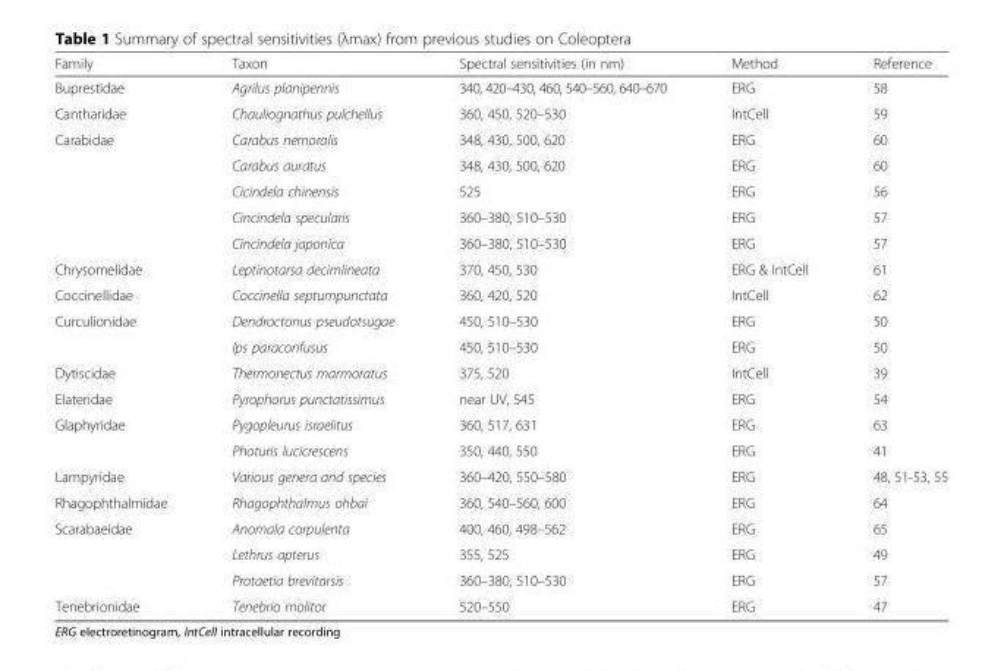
<table><thead><tr><td>Family</td><td>Taxon</td><td>Spectral sensitivities (in nm)</td><td>Method</td><td>Reference</td></tr></thead><tbody><tr><td>Buprestidae</td><td>Agrilus planipennis</td><td>340, 420–430, 460, 540–560, 640–670</td><td>ERG</td><td>58</td></tr><tr><td>Cantharidae</td><td>Chauliognathus pulchellus</td><td>360, 450, 520–530</td><td>IntCell</td><td>59</td></tr><tr><td rowspan="5">Carabidae</td><td>Carabus nemoralis</td><td>348, 430, 500, 620</td><td>ERG</td><td>60</td></tr><tr><td>Carabus auratus</td><td>348, 430, 500, 620</td><td>ERG</td><td>60</td></tr><tr><td>Cicindela chinensis</td><td>525</td><td>ERG</td><td>56</td></tr><tr><td>Cincindela specularis</td><td>360–380, 510–530</td><td>ERG</td><td>57</td></tr><tr><td>Cincindela japonica</td><td>360–380, 510–530</td><td>ERG</td><td>57</td></tr><tr><td>Chrysomelidae</td><td>Leptinotarsa decimlineata</td><td>370, 450, 530</td><td>ERG &amp; IntCell</td><td>61</td></tr><tr><td>Coccinellidae</td><td>Coccinella septumpunctata</td><td>360, 420, 520</td><td>IntCell</td><td>62</td></tr><tr><td rowspan="2">Curculionidae</td><td>Dendroctonus pseudotsugae</td><td>450, 510–530</td><td>ERG</td><td>50</td></tr><tr><td>Ips paraconfusus</td><td>450, 510–530</td><td>ERG</td><td>50</td></tr><tr><td>Dytiscidae</td><td>Thermonectus marmoratus</td><td>375, 520</td><td>IntCell</td><td>39</td></tr><tr><td>Elateridae</td><td>Pyrophorus punctatissimus</td><td>near UV, 545</td><td>ERG</td><td>54</td></tr><tr><td rowspan="2">Glaphyridae</td><td>Pygopleurus israelitus</td><td>360, 517, 631</td><td>ERG</td><td>63</td></tr><tr><td>Photuris lucicrescens</td><td>350, 440, 550</td><td>ERG</td><td>41</td></tr><tr><td>Lampyridae</td><td>Various genera and species</td><td>360–420, 550–580</td><td>ERG</td><td>48, 51-53, 55</td></tr><tr><td>Rhagophthalmidae</td><td>Rhagophthalmus ohbai</td><td>360, 540–560, 600</td><td>ERG</td><td>64</td></tr><tr><td rowspan="3">Scarabaeidae</td><td>Anomala corpulenta</td><td>400, 460, 498–562</td><td>ERG</td><td>65</td></tr><tr><td>Lethrus apterus</td><td>355, 525</td><td>ERG</td><td>49</td></tr><tr><td>Protaetia brevitarsis</td><td>360–380, 510–530</td><td>ERG</td><td>57</td></tr><tr><td>Tenebrionidae</td><td>Tenebrio molitor</td><td>520–550</td><td>ERG</td><td>47</td></tr></tbody></table>